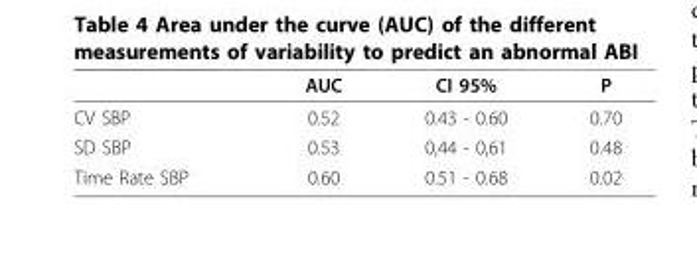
<table><thead><tr><td></td><td>AUC</td><td>CI 95%</td><td>P</td></tr></thead><tbody><tr><td>CV SBP</td><td>0.52</td><td>0.43 - 0.60</td><td>0.70</td></tr><tr><td>SD SBP</td><td>0.53</td><td>0,44 - 0,61</td><td>0.48</td></tr><tr><td>Time Rate SBP</td><td>0.60</td><td>0.51 - 0.68</td><td>0.02</td></tr></tbody></table>